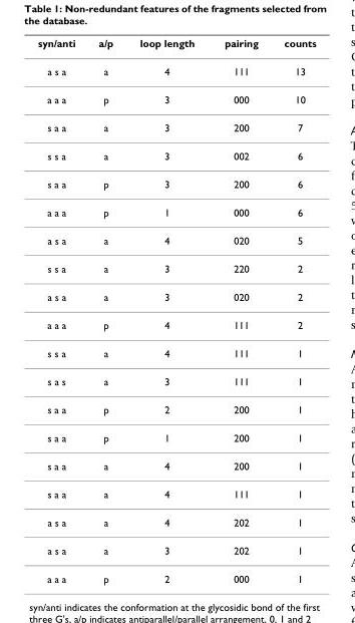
<table><thead><tr><td>syn/anti</td><td>a/p</td><td>loop length</td><td>pairing</td><td>counts</td></tr></thead><tbody><tr><td>a s a</td><td>a</td><td>4</td><td>111</td><td>13</td></tr><tr><td>a a a</td><td>p</td><td>3</td><td>000</td><td>10</td></tr><tr><td>s a a</td><td>a</td><td>3</td><td>200</td><td>7</td></tr><tr><td>s s a</td><td>a</td><td>3</td><td>002</td><td>6</td></tr><tr><td>s a a</td><td>p</td><td>3</td><td>200</td><td>6</td></tr><tr><td>a a a</td><td>p</td><td>1</td><td>000</td><td>6</td></tr><tr><td>a s a</td><td>a</td><td>4</td><td>020</td><td>5</td></tr><tr><td>s s a</td><td>a</td><td>3</td><td>220</td><td>2</td></tr><tr><td>a s a</td><td>a</td><td>3</td><td>020</td><td>2</td></tr><tr><td>a a a</td><td>p</td><td>4</td><td>111</td><td>2</td></tr><tr><td>s s a</td><td>a</td><td>4</td><td>111</td><td>1</td></tr><tr><td>s a s</td><td>a</td><td>3</td><td>111</td><td>1</td></tr><tr><td>s a a</td><td>p</td><td>2</td><td>200</td><td>1</td></tr><tr><td>s a a</td><td>p</td><td>1</td><td>200</td><td>1</td></tr><tr><td>s a a</td><td>a</td><td>4</td><td>200</td><td>1</td></tr><tr><td>s a a</td><td>a</td><td>4</td><td>111</td><td>1</td></tr><tr><td>a s a</td><td>a</td><td>4</td><td>202</td><td>1</td></tr><tr><td>a s a</td><td>a</td><td>3</td><td>202</td><td>1</td></tr><tr><td>a a a</td><td>p</td><td>2</td><td>000</td><td>1</td></tr></tbody></table>